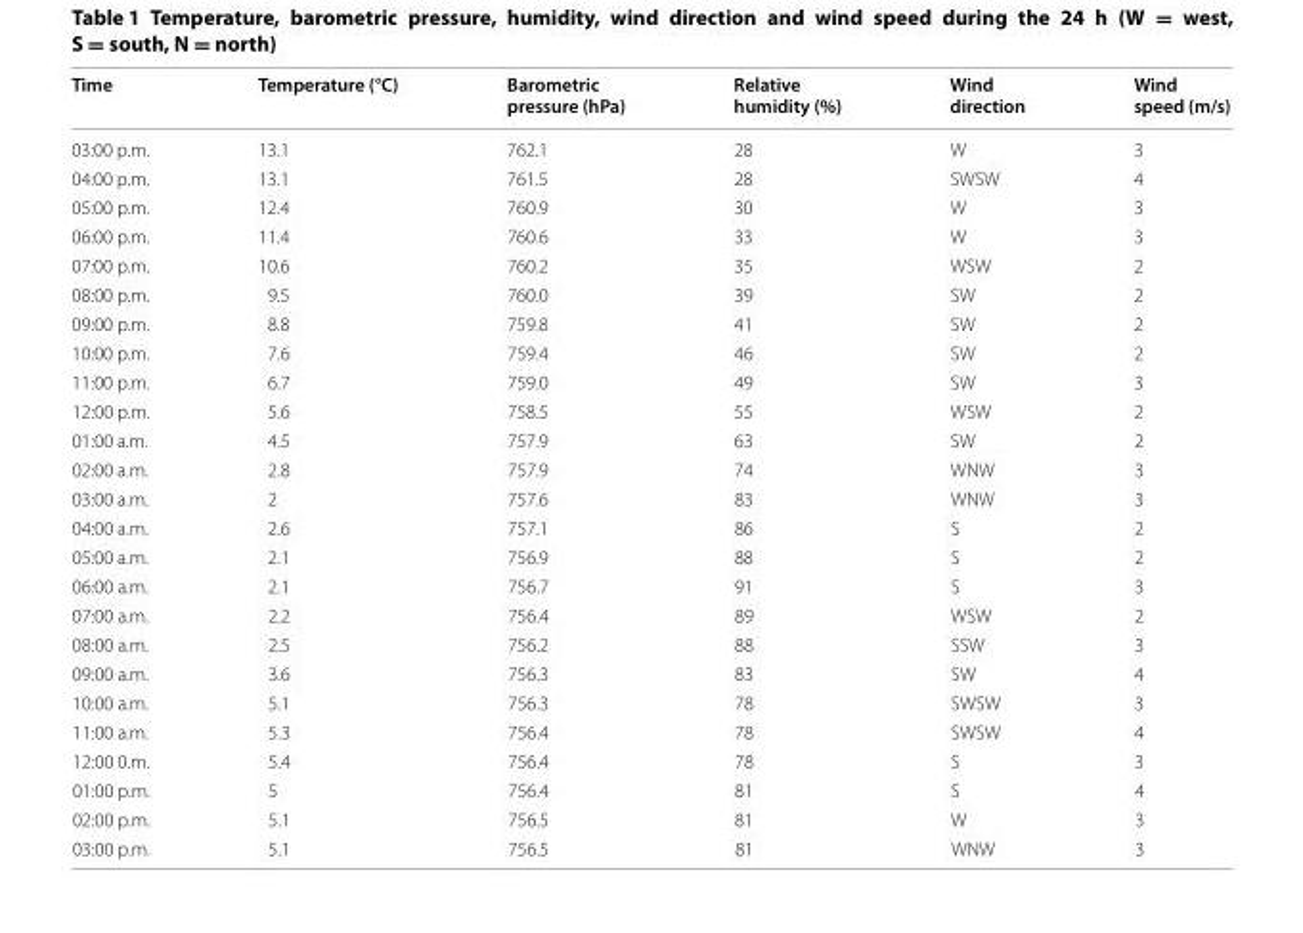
<table><thead><tr><td>Time</td><td>Temperature (°C)</td><td>Barometric pressure (hPa)</td><td>Relative humidity (%)</td><td>Wind direction</td><td>Wind speed (m/s)</td></tr></thead><tbody><tr><td>03:00 p.m.</td><td>13.1</td><td>762.1</td><td>28</td><td>W</td><td>3</td></tr><tr><td>04:00 p.m.</td><td>13.1</td><td>761.5</td><td>28</td><td>SWSW</td><td>4</td></tr><tr><td>05:00 p.m.</td><td>12.4</td><td>760.9</td><td>30</td><td>W</td><td>3</td></tr><tr><td>06:00 p.m.</td><td>11.4</td><td>760.6</td><td>33</td><td>W</td><td>3</td></tr><tr><td>07:00 p.m.</td><td>10.6</td><td>760.2</td><td>35</td><td>WSW</td><td>2</td></tr><tr><td>08:00 p.m.</td><td>9.5</td><td>760.0</td><td>39</td><td>SW</td><td>2</td></tr><tr><td>09:00 p.m.</td><td>8.8</td><td>759.8</td><td>41</td><td>SW</td><td>2</td></tr><tr><td>10:00 p.m.</td><td>7.6</td><td>759.4</td><td>46</td><td>SW</td><td>2</td></tr><tr><td>11:00 p.m.</td><td>6.7</td><td>759.0</td><td>49</td><td>SW</td><td>3</td></tr><tr><td>12:00 p.m.</td><td>5.6</td><td>758.5</td><td>55</td><td>WSW</td><td>2</td></tr><tr><td>01:00 a.m.</td><td>4.5</td><td>757.9</td><td>63</td><td>SW</td><td>2</td></tr><tr><td>02:00 a.m.</td><td>2.8</td><td>757.9</td><td>74</td><td>WNW</td><td>3</td></tr><tr><td>03:00 a.m.</td><td>2</td><td>757.6</td><td>83</td><td>WNW</td><td>3</td></tr><tr><td>04:00 a.m.</td><td>2.6</td><td>757.1</td><td>86</td><td>S</td><td>2</td></tr><tr><td>05:00 a.m.</td><td>2.1</td><td>756.9</td><td>88</td><td>S</td><td>2</td></tr><tr><td>06:00 a.m.</td><td>2.1</td><td>756.7</td><td>91</td><td>S</td><td>3</td></tr><tr><td>07:00 a.m.</td><td>2.2</td><td>756.4</td><td>89</td><td>WSW</td><td>2</td></tr><tr><td>08:00 a.m.</td><td>2.5</td><td>756.2</td><td>88</td><td>SSW</td><td>3</td></tr><tr><td>09:00 a.m.</td><td>3.6</td><td>756.3</td><td>83</td><td>SW</td><td>4</td></tr><tr><td>10:00 a.m.</td><td>5.1</td><td>756.3</td><td>78</td><td>SWSW</td><td>3</td></tr><tr><td>11:00 a.m.</td><td>5.3</td><td>756.4</td><td>78</td><td>SWSW</td><td>4</td></tr><tr><td>12:00 0.m.</td><td>5.4</td><td>756.4</td><td>78</td><td>S</td><td>3</td></tr><tr><td>01:00 p.m.</td><td>5</td><td>756.4</td><td>81</td><td>S</td><td>4</td></tr><tr><td>02:00 p.m.</td><td>5.1</td><td>756.5</td><td>81</td><td>W</td><td>3</td></tr><tr><td>03:00 p.m.</td><td>5.1</td><td>756.5</td><td>81</td><td>WNW</td><td>3</td></tr></tbody></table>